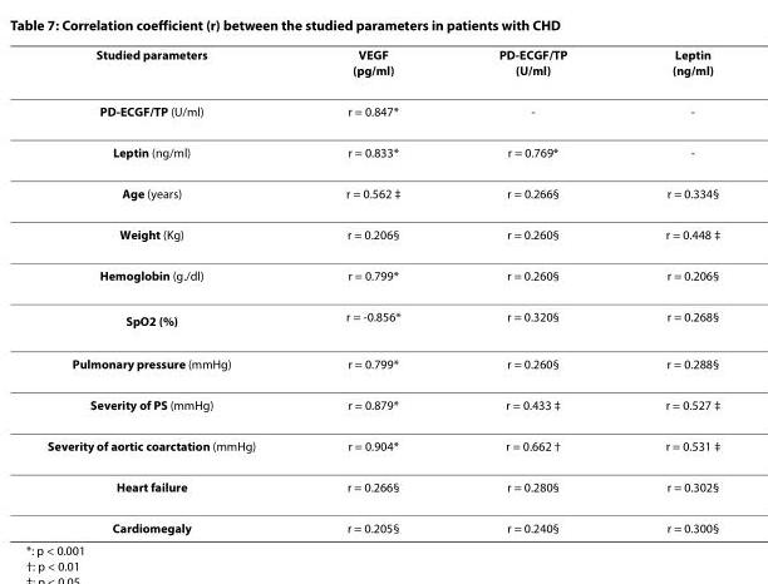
<table><thead><tr><td>Studied parameters</td><td>VEGF (pg/ml)</td><td>PD-ECGF/TP (U/ml)</td><td>Leptin (ng/ml)</td></tr></thead><tbody><tr><td>PD-ECGF/TP (U/ml)</td><td>r = 0.847*</td><td>-</td><td>-</td></tr><tr><td>Leptin (ng/ml)</td><td>r = 0.833*</td><td>r = 0.769*</td><td>-</td></tr><tr><td>Age (years)</td><td>r = 0.562 ‡</td><td>r = 0.266§</td><td>r = 0.334§</td></tr><tr><td>Weight (Kg)</td><td>r = 0.206§</td><td>r = 0.260§</td><td>r = 0.448 ‡</td></tr><tr><td>Hemoglobin (g./dl)</td><td>r = 0.799*</td><td>r = 0.260§</td><td>r = 0.206§</td></tr><tr><td>SpO<sub>2</sub> (%)</td><td>r = -0.856*</td><td>r = 0.320§</td><td>r = 0.268§</td></tr><tr><td>Pulmonary pressure (mmHg)</td><td>r = 0.799*</td><td>r = 0.260§</td><td>r = 0.288§</td></tr><tr><td>Severity of PS (mmHg)</td><td>r = 0.879*</td><td>r = 0.433 ‡</td><td>r = 0.527 ‡</td></tr><tr><td>Severity of aortic coarctation (mmHg)</td><td>r = 0.904*</td><td>r = 0.662 †</td><td>r = 0.531 ‡</td></tr><tr><td>Heart failure</td><td>r = 0.266§</td><td>r = 0.280§</td><td>r = 0.302§</td></tr><tr><td>Cardiomegaly</td><td>r = 0.205§</td><td>r = 0.240§</td><td>r = 0.300§</td></tr></tbody></table>